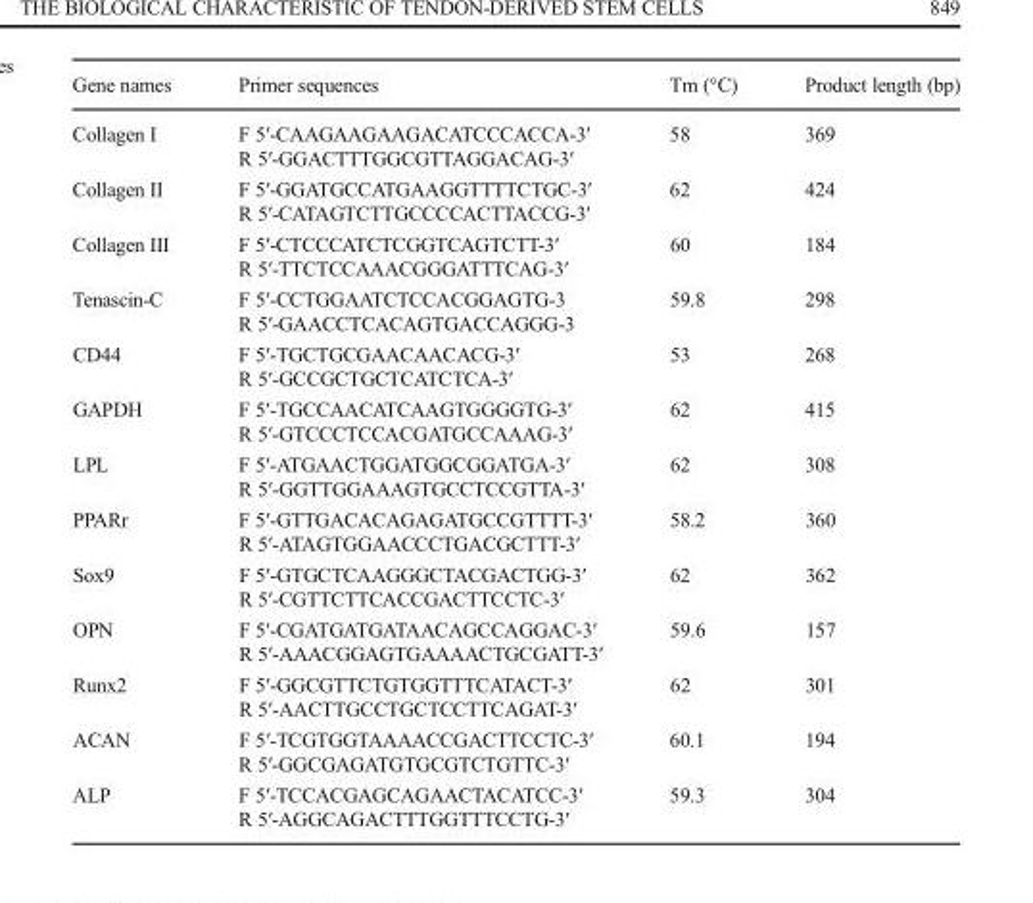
<table><thead><tr><td>Gene names</td><td>Primer sequences</td><td>Tm (°C)</td><td>Product length (bp)</td></tr></thead><tbody><tr><td rowspan="2">Collagen I</td><td>F 5′-CAAGAAGAAGACATCCCACCA-3′</td><td rowspan="2">58</td><td rowspan="2">369</td></tr><tr><td>R 5′-GGACTTTGGCGTTAGGACAG-3′</td></tr><tr><td rowspan="2">Collagen II</td><td>F 5′-GGATGCCATGAAGGTTTTCTGC-3′</td><td rowspan="2">62</td><td rowspan="2">424</td></tr><tr><td>R 5′-CATAGTCTTGCCCCACTTACCG-3′</td></tr><tr><td rowspan="2">Collagen III</td><td>F 5′-CTCCCATCTCGGTCAGTCTT-3′</td><td rowspan="2">60</td><td rowspan="2">184</td></tr><tr><td>R 5′-TTCTCCAAACGGGATTTCAG-3′</td></tr><tr><td rowspan="2">Tenascin-C</td><td>F 5′-CCTGGAATCTCCACGGAGTG-3</td><td rowspan="2">59.8</td><td rowspan="2">298</td></tr><tr><td>R 5′-GAACCTCACAGTGACCAGGG-3</td></tr><tr><td rowspan="2">CD44</td><td>F 5′-TGCTGCGAACAACACG-3′</td><td rowspan="2">53</td><td rowspan="2">268</td></tr><tr><td>R 5′-GCCGCTGCTCATCTCA-3′</td></tr><tr><td rowspan="2">GAPDH</td><td>F 5′-TGCCAACATCAAGTGGGGTG-3′</td><td rowspan="2">62</td><td rowspan="2">415</td></tr><tr><td>R 5′-GTCCCTCCACGATGCCAAAG-3′</td></tr><tr><td rowspan="2">LPL</td><td>F 5′-ATGAACTGGATGGCGGATGA-3′</td><td rowspan="2">62</td><td rowspan="2">308</td></tr><tr><td>R 5′-GGTTGGAAAGTGCCTCCGTTA-3′</td></tr><tr><td rowspan="2">PPARr</td><td>F 5′-GTTGACACAGAGATGCCGTTTT-3′</td><td rowspan="2">58.2</td><td rowspan="2">360</td></tr><tr><td>R 5′-ATAGTGGAACCCTGACGCTTT-3′</td></tr><tr><td rowspan="2">Sox9</td><td>F 5′-GTGCTCAAGGGCTACGACTGG-3′</td><td rowspan="2">62</td><td rowspan="2">362</td></tr><tr><td>R 5′-CGTTCTTCACCGACTTCCTC-3′</td></tr><tr><td rowspan="2">OPN</td><td>F 5′-CGATGATGATAACAGCCAGGAC-3′</td><td rowspan="2">59.6</td><td rowspan="2">157</td></tr><tr><td>R 5′-AAACGGAGTGAAAACTGCGATT-3′</td></tr><tr><td rowspan="2">Runx2</td><td>F 5′-GGCGTTCTGTGGTTTCATACT-3′</td><td rowspan="2">62</td><td rowspan="2">301</td></tr><tr><td>R 5′-AACTTGCCTGCTCCTTCAGAT-3′</td></tr><tr><td rowspan="2">ACAN</td><td>F 5′-TCGTGGTAAAACCGACTTCCTC-3′</td><td rowspan="2">60.1</td><td rowspan="2">194</td></tr><tr><td>R 5′-GGCGAGATGTGCGTCTGTTC-3′</td></tr><tr><td rowspan="2">ALP</td><td>F 5′-TCCACGAGCAGAACTACATCC-3′</td><td rowspan="2">59.3</td><td rowspan="2">304</td></tr><tr><td>R 5′-AGGCAGACTTTGGTTTCCTG-3′</td></tr></tbody></table>